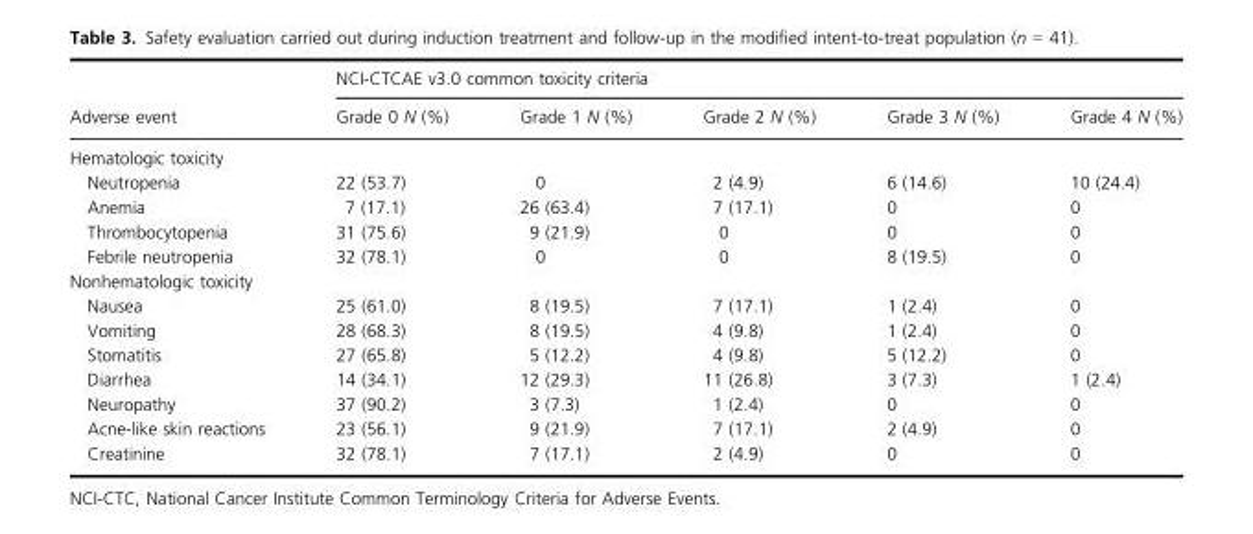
<table><thead><tr><td rowspan="2">Adverse event</td><td colspan="5">NCI-CTCAE v3.0 common toxicity criteria</td></tr><tr><td>Grade 0 N (%)</td><td>Grade 1 N (%)</td><td>Grade 2 N (%)</td><td>Grade 3 N (%)</td><td>Grade 4 N (%)</td></tr></thead><tbody><tr><td colspan="6">Hematologic toxicity</td></tr><tr><td>Neutropenia</td><td>22 (53.7)</td><td>0</td><td>2 (4.9)</td><td>6 (14.6)</td><td>10 (24.4)</td></tr><tr><td>Anemia</td><td>7 (17.1)</td><td>26 (63.4)</td><td>7 (17.1)</td><td>0</td><td>0</td></tr><tr><td>Thrombocytopenia</td><td>31 (75.6)</td><td>9 (21.9)</td><td>0</td><td>0</td><td>0</td></tr><tr><td>Febrile neutropenia</td><td>32 (78.1)</td><td>0</td><td>0</td><td>8 (19.5)</td><td>0</td></tr><tr><td colspan="6">Nonhematologic toxicity</td></tr><tr><td>Nausea</td><td>25 (61.0)</td><td>8 (19.5)</td><td>7 (17.1)</td><td>1 (2.4)</td><td>0</td></tr><tr><td>Vomiting</td><td>28 (68.3)</td><td>8 (19.5)</td><td>4 (9.8)</td><td>1 (2.4)</td><td>0</td></tr><tr><td>Stomatitis</td><td>27 (65.8)</td><td>5 (12.2)</td><td>4 (9.8)</td><td>5 (12.2)</td><td>0</td></tr><tr><td>Diarrhea</td><td>14 (34.1)</td><td>12 (29.3)</td><td>11 (26.8)</td><td>3 (7.3)</td><td>1 (2.4)</td></tr><tr><td>Neuropathy</td><td>37 (90.2)</td><td>3 (7.3)</td><td>1 (2.4)</td><td>0</td><td>0</td></tr><tr><td>Acne-like skin reactions</td><td>23 (56.1)</td><td>9 (21.9)</td><td>7 (17.1)</td><td>2 (4.9)</td><td>0</td></tr><tr><td>Creatinine</td><td>32 (78.1)</td><td>7 (17.1)</td><td>2 (4.9)</td><td>0</td><td>0</td></tr></tbody></table>